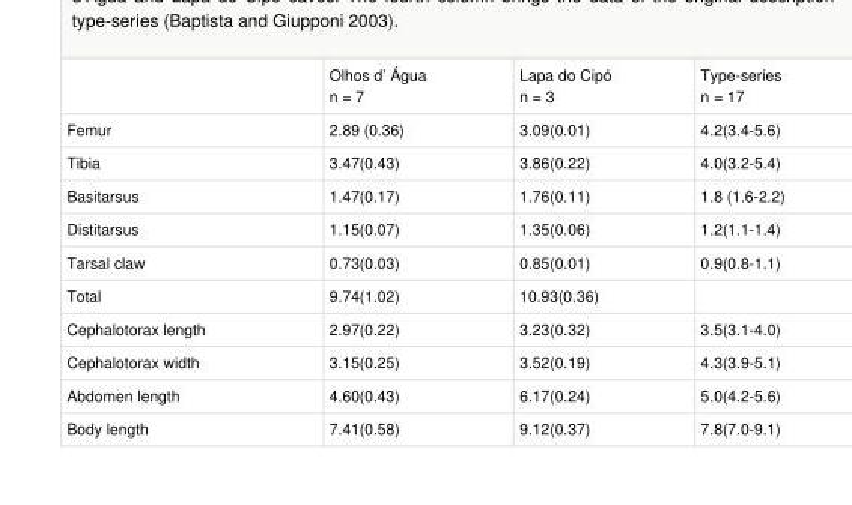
<table><thead><tr><td></td><td>Olhos d’ Água n = 7</td><td>Lapa do Cipó n = 3</td><td>Type-series n = 17</td></tr></thead><tbody><tr><td>Femur</td><td>2.89 (0.36)</td><td>3.09(0.01)</td><td>4.2(3.4-5.6)</td></tr><tr><td>Tibia</td><td>3.47(0.43)</td><td>3.86(0.22)</td><td>4.0(3.2-5.4)</td></tr><tr><td>Basitarsus</td><td>1.47(0.17)</td><td>1.76(0.11)</td><td>1.8 (1.6-2.2)</td></tr><tr><td>Distitarsus</td><td>1.15(0.07)</td><td>1.35(0.06)</td><td>1.2(1.1-1.4)</td></tr><tr><td>Tarsal claw</td><td>0.73(0.03)</td><td>0.85(0.01)</td><td>0.9(0.8-1.1)</td></tr><tr><td>Total</td><td>9.74(1.02)</td><td>10.93(0.36)</td><td></td></tr><tr><td>Cephalotorax length</td><td>2.97(0.22)</td><td>3.23(0.32)</td><td>3.5(3.1-4.0)</td></tr><tr><td>Cephalotorax width</td><td>3.15(0.25)</td><td>3.52(0.19)</td><td>4.3(3.9-5.1)</td></tr><tr><td>Abdomen length</td><td>4.60(0.43)</td><td>6.17(0.24)</td><td>5.0(4.2-5.6)</td></tr><tr><td>Body length</td><td>7.41(0.58)</td><td>9.12(0.37)</td><td>7.8(7.0-9.1)</td></tr></tbody></table>